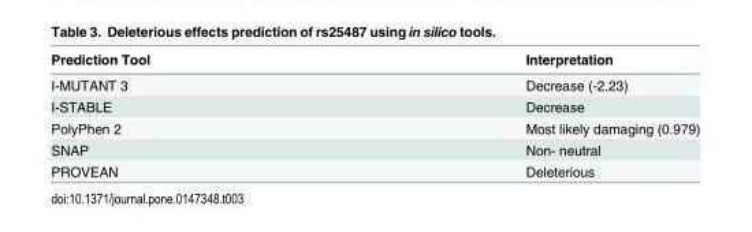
<table><thead><tr><td>Prediction Tool</td><td>Interpretation</td></tr></thead><tbody><tr><td>I-MUTANT 3</td><td>Decrease (-2.23)</td></tr><tr><td>I-STABLE</td><td>Decrease</td></tr><tr><td>PolyPhen 2</td><td>Most likely damaging (0.979)</td></tr><tr><td>SNAP</td><td>Non- neutral</td></tr><tr><td>PROVEAN</td><td>Deleterious</td></tr></tbody></table>